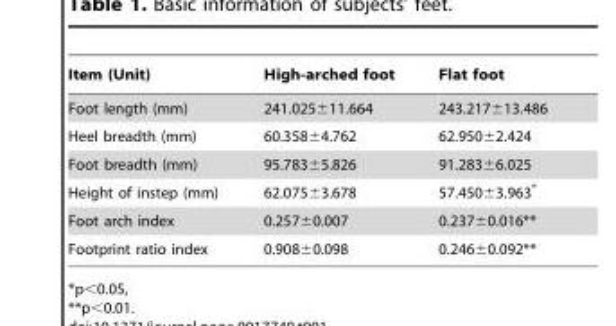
<table><thead><tr><td>Item (Unit)</td><td>High-arched foot</td><td>Flat foot</td></tr></thead><tbody><tr><td>Foot length (mm)</td><td>241.025±11.664</td><td>243.217±13.486</td></tr><tr><td>Heel breadth (mm)</td><td>60.358±4.762</td><td>62.950±2.424</td></tr><tr><td>Foot breadth (mm)</td><td>95.783±5.826</td><td>91.283±6.025</td></tr><tr><td>Height of instep (mm)</td><td>62.075±3.678</td><td>57.450±3.963*</td></tr><tr><td>Foot arch index</td><td>0.257±0.007</td><td>0.237±0.016**</td></tr><tr><td>Footprint ratio index</td><td>0.908±0.098</td><td>0.246±0.092**</td></tr></tbody></table>